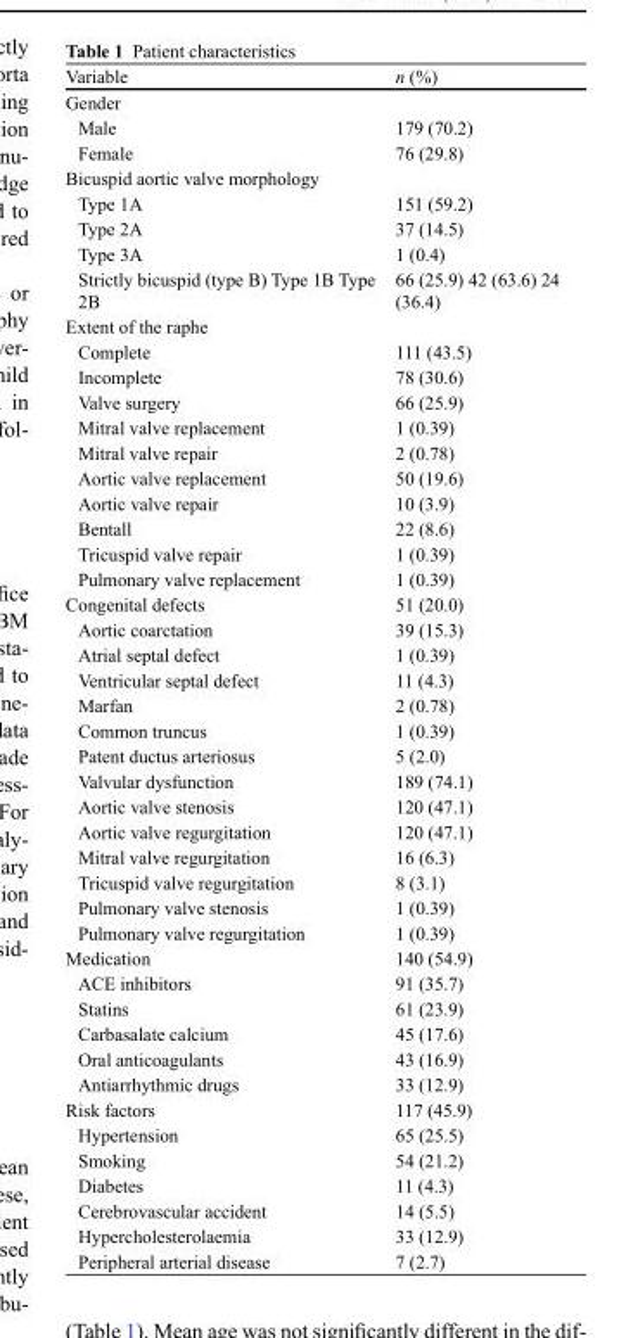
<table><thead><tr><td>Variable</td><td>n (%)</td></tr></thead><tbody><tr><td colspan="2">Gender</td></tr><tr><td>Male</td><td>179 (70.2)</td></tr><tr><td>Female</td><td>76 (29.8)</td></tr><tr><td colspan="2">Bicuspid aortic valve morphology</td></tr><tr><td>Type 1A</td><td>151 (59.2)</td></tr><tr><td>Type 2A</td><td>37 (14.5)</td></tr><tr><td>Type 3A</td><td>1 (0.4)</td></tr><tr><td>Strictly bicuspid (type B) Type 1B Type 2B</td><td>66 (25.9) 42 (63.6) 24 (36.4)</td></tr><tr><td colspan="2">Extent of the raphe</td></tr><tr><td>Complete</td><td>111 (43.5)</td></tr><tr><td>Incomplete</td><td>78 (30.6)</td></tr><tr><td>Valve surgery</td><td>66 (25.9)</td></tr><tr><td>Mitral valve replacement</td><td>1 (0.39)</td></tr><tr><td>Mitral valve repair</td><td>2 (0.78)</td></tr><tr><td>Aortic valve replacement</td><td>50 (19.6)</td></tr><tr><td>Aortic valve repair</td><td>10 (3.9)</td></tr><tr><td>Bentall</td><td>22 (8.6)</td></tr><tr><td>Tricuspid valve repair</td><td>1 (0.39)</td></tr><tr><td>Pulmonary valve replacement</td><td>1 (0.39)</td></tr><tr><td>Congenital defects</td><td>51 (20.0)</td></tr><tr><td>Aortic coarctation</td><td>39 (15.3)</td></tr><tr><td>Atrial septal defect</td><td>1 (0.39)</td></tr><tr><td>Ventricular septal defect</td><td>11 (4.3)</td></tr><tr><td>Marfan</td><td>2 (0.78)</td></tr><tr><td>Common truncus</td><td>1 (0.39)</td></tr><tr><td>Patent ductus arteriosus</td><td>5 (2.0)</td></tr><tr><td>Valvular dysfunction</td><td>189 (74.1)</td></tr><tr><td>Aortic valve stenosis</td><td>120 (47.1)</td></tr><tr><td>Aortic valve regurgitation</td><td>120 (47.1)</td></tr><tr><td>Mitral valve regurgitation</td><td>16 (6.3)</td></tr><tr><td>Tricuspid valve regurgitation</td><td>8 (3.1)</td></tr><tr><td>Pulmonary valve stenosis</td><td>1 (0.39)</td></tr><tr><td>Pulmonary valve regurgitation</td><td>1 (0.39)</td></tr><tr><td>Medication</td><td>140 (54.9)</td></tr><tr><td>ACE inhibitors</td><td>91 (35.7)</td></tr><tr><td>Statins</td><td>61 (23.9)</td></tr><tr><td>Carbasalate calcium</td><td>45 (17.6)</td></tr><tr><td>Oral anticoagulants</td><td>43 (16.9)</td></tr><tr><td>Antiarrhythmic drugs</td><td>33 (12.9)</td></tr><tr><td>Risk factors</td><td>117 (45.9)</td></tr><tr><td>Hypertension</td><td>65 (25.5)</td></tr><tr><td>Smoking</td><td>54 (21.2)</td></tr><tr><td>Diabetes</td><td>11 (4.3)</td></tr><tr><td>Cerebrovascular accident</td><td>14 (5.5)</td></tr><tr><td>Hypercholesterolaemia</td><td>33 (12.9)</td></tr><tr><td>Peripheral arterial disease</td><td>7 (2.7)</td></tr></tbody></table>